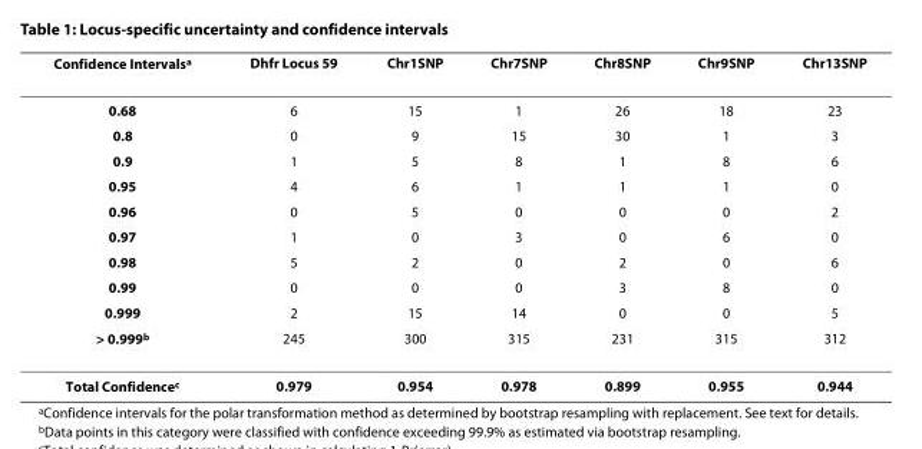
<table><thead><tr><td>Confidence Intervals<sup>a</sup></td><td>Dhfr Locus 59</td><td>Chr1SNP</td><td>Chr7SNP</td><td>Chr8SNP</td><td>Chr9SNP</td><td>Chr13SNP</td></tr></thead><tbody><tr><td>0.68</td><td>6</td><td>15</td><td>1</td><td>26</td><td>18</td><td>23</td></tr><tr><td>0.8</td><td>0</td><td>9</td><td>15</td><td>30</td><td>1</td><td>3</td></tr><tr><td>0.9</td><td>1</td><td>5</td><td>8</td><td>1</td><td>8</td><td>6</td></tr><tr><td>0.95</td><td>4</td><td>6</td><td>1</td><td>1</td><td>1</td><td>0</td></tr><tr><td>0.96</td><td>0</td><td>5</td><td>0</td><td>0</td><td>0</td><td>2</td></tr><tr><td>0.97</td><td>1</td><td>0</td><td>3</td><td>0</td><td>6</td><td>0</td></tr><tr><td>0.98</td><td>5</td><td>2</td><td>0</td><td>2</td><td>0</td><td>6</td></tr><tr><td>0.99</td><td>0</td><td>0</td><td>0</td><td>3</td><td>8</td><td>0</td></tr><tr><td>0.999</td><td>2</td><td>15</td><td>14</td><td>0</td><td>0</td><td>5</td></tr><tr><td>&gt; 0.999<sup>b</sup></td><td>245</td><td>300</td><td>315</td><td>231</td><td>315</td><td>312</td></tr><tr><td>Total Confidence<sup>c</sup></td><td>0.979</td><td>0.954</td><td>0.978</td><td>0.899</td><td>0.955</td><td>0.944</td></tr></tbody></table>